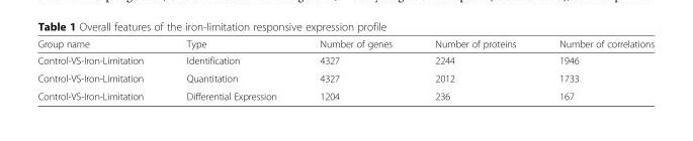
<table><thead><tr><td>Group name</td><td>Type</td><td>Number of genes</td><td>Number of proteins</td><td>Number of correlations</td></tr></thead><tbody><tr><td>Control-VS-Iron-Limitation</td><td>Identification</td><td>4327</td><td>2244</td><td>1946</td></tr><tr><td>Control-VS-Iron-Limitation</td><td>Quantitation</td><td>4327</td><td>2012</td><td>1733</td></tr><tr><td>Control-VS-Iron-Limitation</td><td>Differential Expression</td><td>1204</td><td>236</td><td>167</td></tr></tbody></table>